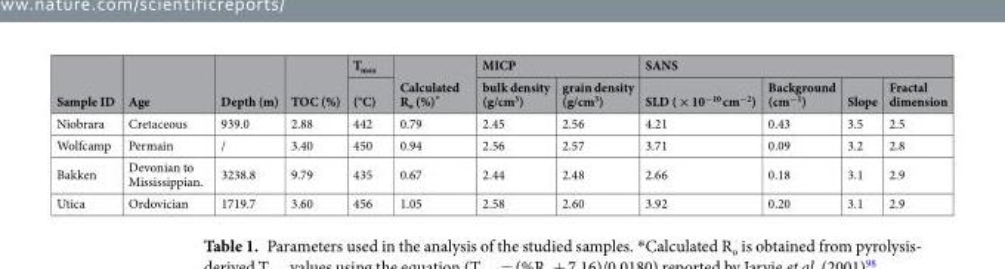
<table><thead><tr><td rowspan="2">Sample ID</td><td rowspan="2">Age</td><td rowspan="2">Depth (m)</td><td rowspan="2">TOC (%)</td><td rowspan="2">T<sub>max</sub> (°C)</td><td rowspan="2">Calculated R<sub>o</sub> (%)*</td><td colspan="2">MICP</td><td colspan="4">SANS</td></tr><tr><td>bulk density (g/cm<sup>3</sup>)</td><td>grain density (g/cm<sup>3</sup>)</td><td>SLD ( × 10<sup>−10</sup> cm<sup>−2</sup>)</td><td>Background (cm<sup>−1</sup>)</td><td>Slope</td><td>Fractal dimension</td></tr></thead><tbody><tr><td>Niobrara</td><td>Cretaceous</td><td>939.0</td><td>2.88</td><td>442</td><td>0.79</td><td>2.45</td><td>2.56</td><td>4.21</td><td>0.43</td><td>3.5</td><td>2.5</td></tr><tr><td>Wolfcamp</td><td>Permain</td><td>/</td><td>3.40</td><td>450</td><td>0.94</td><td>2.56</td><td>2.57</td><td>3.71</td><td>0.09</td><td>3.2</td><td>2.8</td></tr><tr><td>Bakken</td><td>Devonian to Mississippian.</td><td>3238.8</td><td>9.79</td><td>435</td><td>0.67</td><td>2.44</td><td>2.48</td><td>2.66</td><td>0.18</td><td>3.1</td><td>2.9</td></tr><tr><td>Utica</td><td>Ordovician</td><td>1719.7</td><td>3.60</td><td>456</td><td>1.05</td><td>2.58</td><td>2.60</td><td>3.92</td><td>0.20</td><td>3.1</td><td>2.9</td></tr></tbody></table>